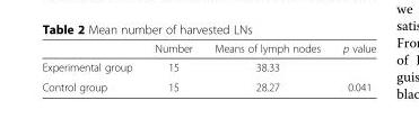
<table><thead><tr><td></td><td>Number</td><td>Means of lymph nodes</td><td>p value</td></tr></thead><tbody><tr><td>Experimental group</td><td>15</td><td>38.33</td><td></td></tr><tr><td>Control group</td><td>15</td><td>28.27</td><td>0.041</td></tr></tbody></table>